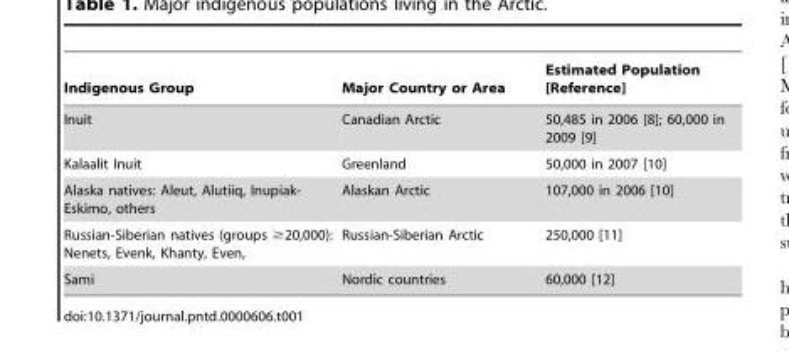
<table><thead><tr><td>Indigenous Group</td><td>Major Country or Area</td><td>Estimated Population [Reference]</td></tr></thead><tbody><tr><td>Inuit</td><td>Canadian Arctic</td><td>50,485 in 2006 [8]; 60,000 in 2009 [9]</td></tr><tr><td>Kalaalit Inuit</td><td>Greenland</td><td>50,000 in 2007 [10]</td></tr><tr><td>Alaska natives: Aleut, Alutiiq, Inupiak- Eskimo, others</td><td>Alaskan Arctic</td><td>107,000 in 2006 [10]</td></tr><tr><td>Russian-Siberian natives (groups ≥20,000): Nenets, Evenk, Khanty, Even,</td><td>Russian-Siberian Arctic</td><td>250,000 [11]</td></tr><tr><td>Sami</td><td>Nordic countries</td><td>60,000 [12]</td></tr></tbody></table>